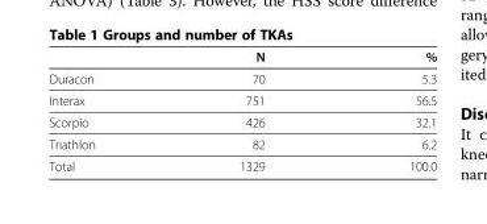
<table><thead><tr><td></td><td>N</td><td>%</td></tr></thead><tbody><tr><td>Duracon</td><td>70</td><td>5.3</td></tr><tr><td>Interax</td><td>751</td><td>56.5</td></tr><tr><td>Scorpio</td><td>426</td><td>32.1</td></tr><tr><td>Triathlon</td><td>82</td><td>6.2</td></tr><tr><td>Total</td><td>1329</td><td>100.0</td></tr></tbody></table>